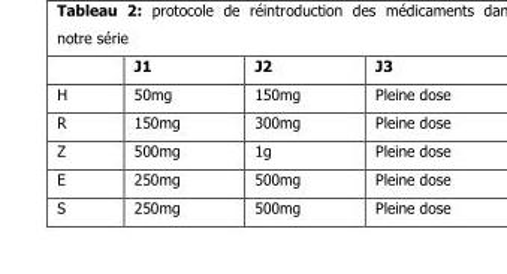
<table><thead><tr><td></td><td>J1</td><td>J2</td><td>J3</td></tr></thead><tbody><tr><td>H</td><td>50mg</td><td>150mg</td><td>Pleine dose</td></tr><tr><td>R</td><td>150mg</td><td>300mg</td><td>Pleine dose</td></tr><tr><td>Z</td><td>500mg</td><td>1g</td><td>Pleine dose</td></tr><tr><td>E</td><td>250mg</td><td>500mg</td><td>Pleine dose</td></tr><tr><td>S</td><td>250mg</td><td>500mg</td><td>Pleine dose</td></tr></tbody></table>